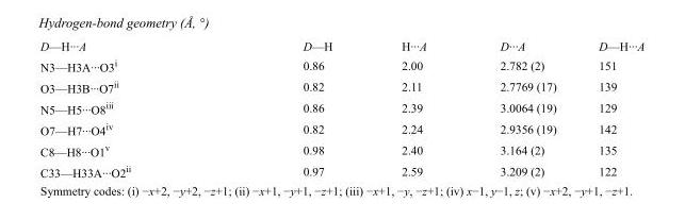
<table><tbody><tr><td>D—H···A</td><td>D—H</td><td>H···A</td><td>D···A</td><td>D—H···A</td></tr><tr><td>N3—H3A···O3<sup>i</sup></td><td>0.86</td><td>2.00</td><td>2.782 (2)</td><td>151</td></tr><tr><td>O3—H3B···O7<sup>ii</sup></td><td>0.82</td><td>2.11</td><td>2.7769 (17)</td><td>139</td></tr><tr><td>N5—H5···O8<sup>iii</sup></td><td>0.86</td><td>2.39</td><td>3.0064 (19)</td><td>129</td></tr><tr><td>O7—H7···O4<sup>iv</sup></td><td>0.82</td><td>2.24</td><td>2.9356 (19)</td><td>142</td></tr><tr><td>C8—H8···O1<sup>v</sup></td><td>0.98</td><td>2.40</td><td>3.164 (2)</td><td>135</td></tr><tr><td>C33—H33A···O2<sup>ii</sup></td><td>0.97</td><td>2.59</td><td>3.209 (2)</td><td>122</td></tr></tbody></table>